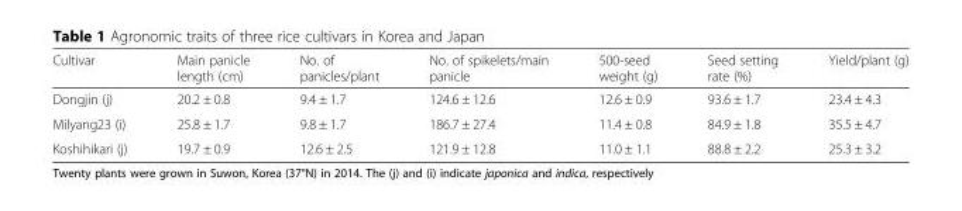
<table><thead><tr><td>Cultivar</td><td>Main panicle length (cm)</td><td>No. of panicles/plant</td><td>No. of spikelets/main panicle</td><td>500-seed weight (g)</td><td>Seed setting rate (%)</td><td>Yield/plant (g)</td></tr></thead><tbody><tr><td>Dongjin (j)</td><td>20.2 ± 0.8</td><td>9.4 ± 1.7</td><td>124.6 ± 12.6</td><td>12.6 ± 0.9</td><td>93.6 ± 1.7</td><td>23.4 ± 4.3</td></tr><tr><td>Milyang23 (i)</td><td>25.8 ± 1.7</td><td>9.8 ± 1.7</td><td>186.7 ± 27.4</td><td>11.4 ± 0.8</td><td>84.9 ± 1.8</td><td>35.5 ± 4.7</td></tr><tr><td>Koshihikari (j)</td><td>19.7 ± 0.9</td><td>12.6 ± 2.5</td><td>121.9 ± 12.8</td><td>11.0 ± 1.1</td><td>88.8 ± 2.2</td><td>25.3 ± 3.2</td></tr></tbody></table>